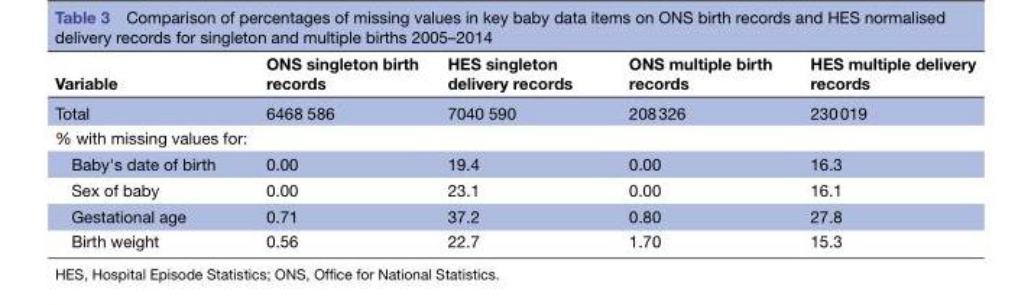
<table><thead><tr><td>Variable</td><td>ONS singleton birth records</td><td>HES singleton delivery records</td><td>ONS multiple birth records</td><td>HES multiple delivery records</td></tr></thead><tbody><tr><td>Total</td><td>6468 586</td><td>7040 590</td><td>208 326</td><td>230 019</td></tr><tr><td colspan="5">% with missing values for:</td></tr><tr><td>Baby&#x27;s date of birth</td><td>0.00</td><td>19.4</td><td>0.00</td><td>16.3</td></tr><tr><td>Sex of baby</td><td>0.00</td><td>23.1</td><td>0.00</td><td>16.1</td></tr><tr><td>Gestational age</td><td>0.71</td><td>37.2</td><td>0.80</td><td>27.8</td></tr><tr><td>Birth weight</td><td>0.56</td><td>22.7</td><td>1.70</td><td>15.3</td></tr></tbody></table>